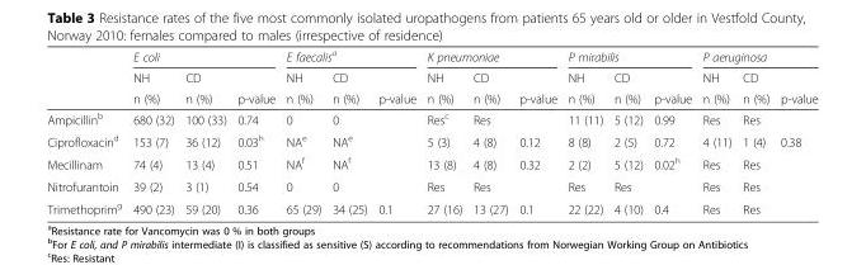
<table><thead><tr><td rowspan="3"></td><td colspan="3">E coli</td><td colspan="3">E faecalis<sup>a</sup></td><td colspan="3">K pneumoniae</td><td colspan="3">P mirabilis</td><td colspan="3">P aeruginosa</td></tr><tr><td rowspan="2">NH n (%)</td><td rowspan="2">CD n (%)</td><td rowspan="2">p-value</td><td rowspan="2">NH n (%)</td><td rowspan="2">CD n (%)</td><td rowspan="2">p-value</td><td rowspan="2">NH n (%)</td><td rowspan="2">CD n (%)</td><td rowspan="2">p-value</td><td rowspan="2">NH n (%)</td><td rowspan="2">CD n (%)</td><td rowspan="2">p-value</td><td rowspan="2">NH n (%)</td><td rowspan="2">CD n (%)</td><td rowspan="2">p-value</td></tr><tr></tr></thead><tbody><tr><td>Ampicillin<sup>b</sup></td><td>680 (32)</td><td>100 (33)</td><td>0.74</td><td>0</td><td>0</td><td></td><td>Res<sup>c</sup></td><td>Res</td><td></td><td>11 (11)</td><td>5 (12)</td><td>0.99</td><td>Res</td><td>Res</td><td></td></tr><tr><td>Ciprofloxacin<sup>d</sup></td><td>153 (7)</td><td>36 (12)</td><td>0.03<sup>h</sup></td><td>NA<sup>e</sup></td><td>NA<sup>e</sup></td><td></td><td>5 (3)</td><td>4 (8)</td><td>0.12</td><td>8 (8)</td><td>2 (5)</td><td>0.72</td><td>4 (11)</td><td>1 (4)</td><td>0.38</td></tr><tr><td>Mecillinam</td><td>74 (4)</td><td>13 (4)</td><td>0.51</td><td>NA<sup>f</sup></td><td>NA<sup>f</sup></td><td></td><td>13 (8)</td><td>4 (8)</td><td>0.32</td><td>2 (2)</td><td>5 (12)</td><td>0.02<sup>h</sup></td><td>Res</td><td>Res</td><td></td></tr><tr><td>Nitrofurantoin</td><td>39 (2)</td><td>3 (1)</td><td>0.54</td><td>0</td><td>0</td><td></td><td>Res</td><td>Res</td><td></td><td>Res</td><td>Res</td><td></td><td>Res</td><td>Res</td><td></td></tr><tr><td>Trimethoprim<sup>g</sup></td><td>490 (23)</td><td>59 (20)</td><td>0.36</td><td>65 (29)</td><td>34 (25)</td><td>0.1</td><td>27 (16)</td><td>13 (27)</td><td>0.1</td><td>22 (22)</td><td>4 (10)</td><td>0.4</td><td>Res</td><td>Res</td><td></td></tr></tbody></table>